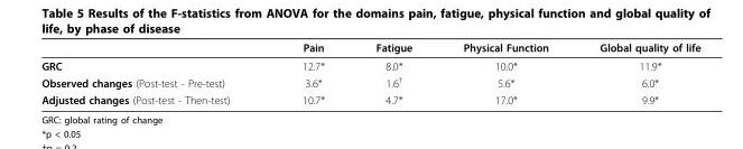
<table><thead><tr><td></td><td>Pain</td><td>Fatigue</td><td>Physical Function</td><td>Global quality of life</td></tr></thead><tbody><tr><td>GRC</td><td>12.7*</td><td>8.0*</td><td>10.0*</td><td>11.9*</td></tr><tr><td>Observed changes (Post-test - Pre-test)</td><td>3.6*</td><td>1.6<sup>†</sup></td><td>5.6*</td><td>6.0*</td></tr><tr><td>Adjusted changes (Post-test - Then-test)</td><td>10.7*</td><td>4.7*</td><td>17.0*</td><td>9.9*</td></tr></tbody></table>